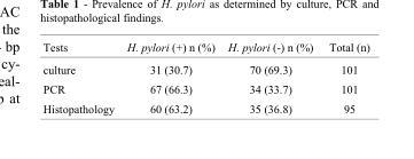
<table><thead><tr><td>Tests</td><td>H. pylori (+) n (%)</td><td>H. pylori (-) n (%)</td><td>Total (n)</td></tr></thead><tbody><tr><td>culture</td><td>31 (30.7)</td><td>70 (69.3)</td><td>101</td></tr><tr><td>PCR</td><td>67 (66.3)</td><td>34 (33.7)</td><td>101</td></tr><tr><td>Histopathology</td><td>60 (63.2)</td><td>35 (36.8)</td><td>95</td></tr></tbody></table>